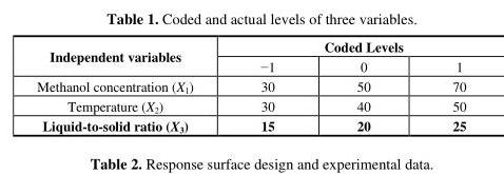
<table><thead><tr><td rowspan="2">Independent variables</td><td colspan="3">Coded Levels</td></tr><tr><td>−1</td><td>0</td><td>1</td></tr></thead><tbody><tr><td>Methanol concentration (X<sub>1</sub>)</td><td>30</td><td>50</td><td>70</td></tr><tr><td>Temperature (X<sub>2</sub>)</td><td>30</td><td>40</td><td>50</td></tr><tr><td>Liquid-to-solid ratio (X<sub>3</sub>)</td><td>15</td><td>20</td><td>25</td></tr></tbody></table>